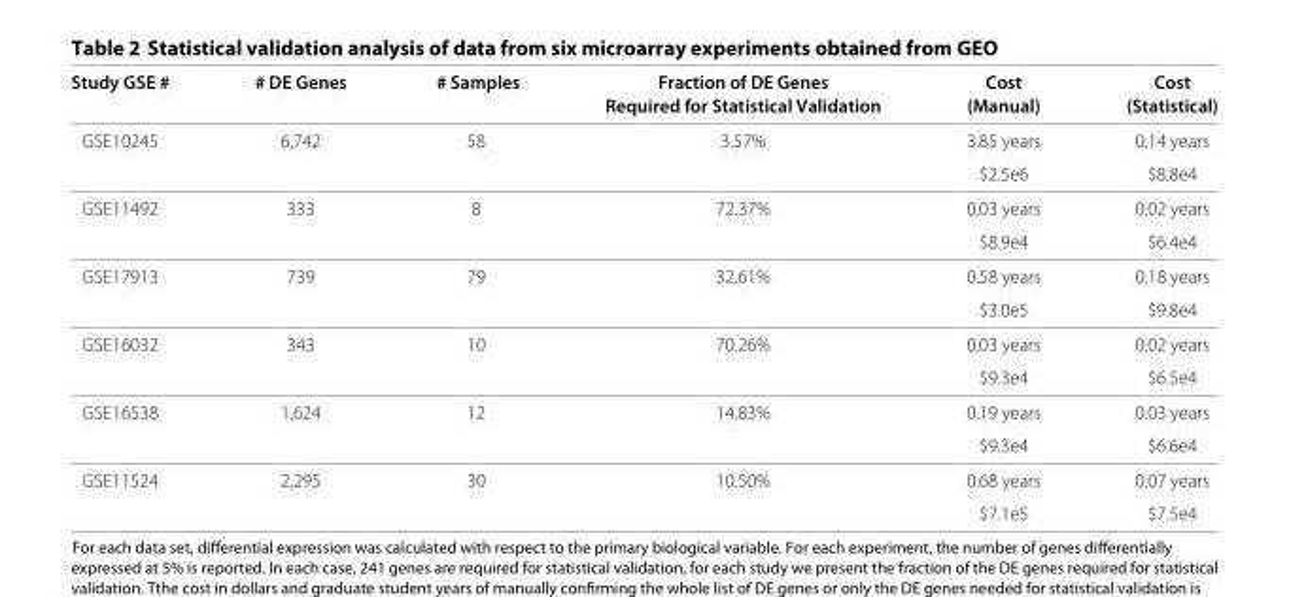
<table><thead><tr><td rowspan="2">Study GSE #</td><td rowspan="2"># DE Genes</td><td rowspan="2"># Samples</td><td rowspan="2">Fraction of DE Genes Required for Statistical Validation</td><td rowspan="2">Cost (Manual)</td><td rowspan="2">Cost (Statistical)</td></tr><tr></tr></thead><tbody><tr><td rowspan="2">GSE10245</td><td>6,742</td><td>58</td><td>3.57%</td><td>3.85 years</td><td>0.14 years</td></tr><tr><td></td><td></td><td></td><td>$2.5e6</td><td>$8.8e4</td></tr><tr><td rowspan="2">GSE11492</td><td>333</td><td>8</td><td>72.37%</td><td>0.03 years</td><td>0.02 years</td></tr><tr><td></td><td></td><td></td><td>$8.9e4</td><td>$6.4e4</td></tr><tr><td rowspan="2">GSE17913</td><td>739</td><td>79</td><td>32.61%</td><td>0.58 years</td><td>0.18 years</td></tr><tr><td></td><td></td><td></td><td>$3.0e5</td><td>$9.8e4</td></tr><tr><td rowspan="2">GSE16032</td><td>343</td><td>10</td><td>70.26%</td><td>0.03 years</td><td>0.02 years</td></tr><tr><td></td><td></td><td></td><td>$9.3e4</td><td>$6.5e4</td></tr><tr><td rowspan="2">GSE16538</td><td>1,624</td><td>12</td><td>14.83%</td><td>0.19 years</td><td>0.03 years</td></tr><tr><td></td><td></td><td></td><td>$9.3e4</td><td>$6.6e4</td></tr><tr><td rowspan="2">GSE11524</td><td>2,295</td><td>30</td><td>10.50%</td><td>0.68 years</td><td>0.07 years</td></tr><tr><td></td><td></td><td></td><td>$7.1e5</td><td>$7.5e4</td></tr></tbody></table>